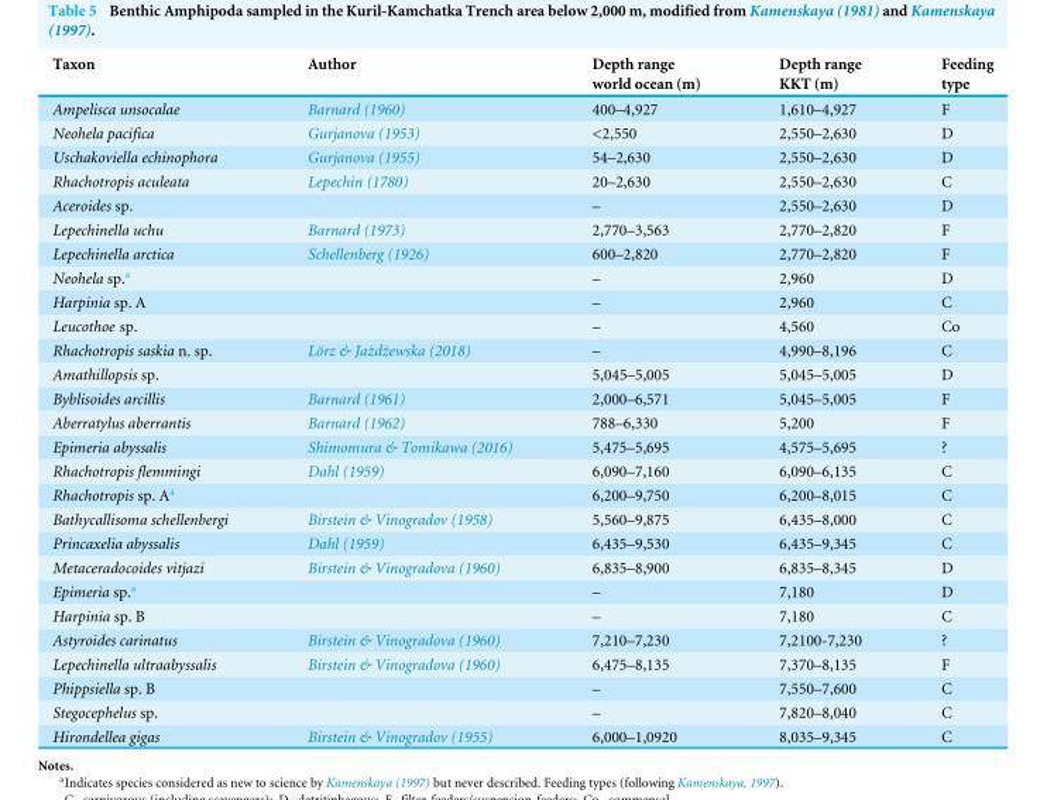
<table><thead><tr><td>Taxon</td><td>Author</td><td>Depth range world ocean (m)</td><td>Depth range KKT (m)</td><td>Feeding type</td></tr></thead><tbody><tr><td>Ampelisca unsocalae</td><td>Barnard (1960)</td><td>400–4,927</td><td>1,610–4,927</td><td>F</td></tr><tr><td>Neohela pacifica</td><td>Gurjanova (1953)</td><td>&lt;2,550</td><td>2,550–2,630</td><td>D</td></tr><tr><td>Uschakoviella echinophora</td><td>Gurjanova (1955)</td><td>54–2,630</td><td>2,550–2,630</td><td>D</td></tr><tr><td>Rhachotropis aculeata</td><td>Lepechin (1780)</td><td>20–2,630</td><td>2,550–2,630</td><td>C</td></tr><tr><td>Aceroides sp.</td><td></td><td>–</td><td>2,550–2,630</td><td>D</td></tr><tr><td>Lepechinella uchu</td><td>Barnard (1973)</td><td>2,770–3,563</td><td>2,770–2,820</td><td>F</td></tr><tr><td>Lepechinella arctica</td><td>Schellenberg (1926)</td><td>600–2,820</td><td>2,770–2,820</td><td>F</td></tr><tr><td>Neohela sp.<sup>a</sup></td><td></td><td>–</td><td>2,960</td><td>D</td></tr><tr><td>Harpinia sp. A</td><td></td><td>–</td><td>2,960</td><td>C</td></tr><tr><td>Leucothoe sp.</td><td></td><td>–</td><td>4,560</td><td>Co</td></tr><tr><td>Rhachotropis saskia n. sp.</td><td>Lörz &amp; Jażdżewska (2018)</td><td>–</td><td>4,990–8,196</td><td>C</td></tr><tr><td>Amathillopsis sp.</td><td></td><td>5,045–5,005</td><td>5,045–5,005</td><td>D</td></tr><tr><td>Byblisoides arcillis</td><td>Barnard (1961)</td><td>2,000–6,571</td><td>5,045–5,005</td><td>F</td></tr><tr><td>Aberratylus aberrantis</td><td>Barnard (1962)</td><td>788–6,330</td><td>5,200</td><td>F</td></tr><tr><td>Epimeria abyssalis</td><td>Shimomura &amp; Tomikawa (2016)</td><td>5,475–5,695</td><td>4,575–5,695</td><td>?</td></tr><tr><td>Rhachotropis flemmingi</td><td>Dahl (1959)</td><td>6,090–7,160</td><td>6,090–6,135</td><td>C</td></tr><tr><td>Rhachotropis sp. A<sup>a</sup></td><td></td><td>6,200–9,750</td><td>6,200–8,015</td><td>C</td></tr><tr><td>Bathycallisoma schellenbergi</td><td>Birstein &amp; Vinogradov (1958)</td><td>5,560–9,875</td><td>6,435–8,000</td><td>C</td></tr><tr><td>Princaxelia abyssalis</td><td>Dahl (1959)</td><td>6,435–9,530</td><td>6,435–9,345</td><td>C</td></tr><tr><td>Metaceradocoides vitjazi</td><td>Birstein &amp; Vinogradova (1960)</td><td>6,835–8,900</td><td>6,835–8,345</td><td>D</td></tr><tr><td>Epimeria sp.<sup>a</sup></td><td></td><td>–</td><td>7,180</td><td>D</td></tr><tr><td>Harpinia sp. B</td><td></td><td>–</td><td>7,180</td><td>C</td></tr><tr><td>Astyroides carinatus</td><td>Birstein &amp; Vinogradova (1960)</td><td>7,210–7,230</td><td>7,2100-7,230</td><td>?</td></tr><tr><td>Lepechinella ultraabyssalis</td><td>Birstein &amp; Vinogradova (1960)</td><td>6,475–8,135</td><td>7,370–8,135</td><td>F</td></tr><tr><td>Phippsiella sp. B</td><td></td><td>–</td><td>7,550–7,600</td><td>C</td></tr><tr><td>Stegocephelus sp.</td><td></td><td>–</td><td>7,820–8,040</td><td>C</td></tr><tr><td>Hirondellea gigas</td><td>Birstein &amp; Vinogradov (1955)</td><td>6,000–1,0920</td><td>8,035–9,345</td><td>C</td></tr></tbody></table>